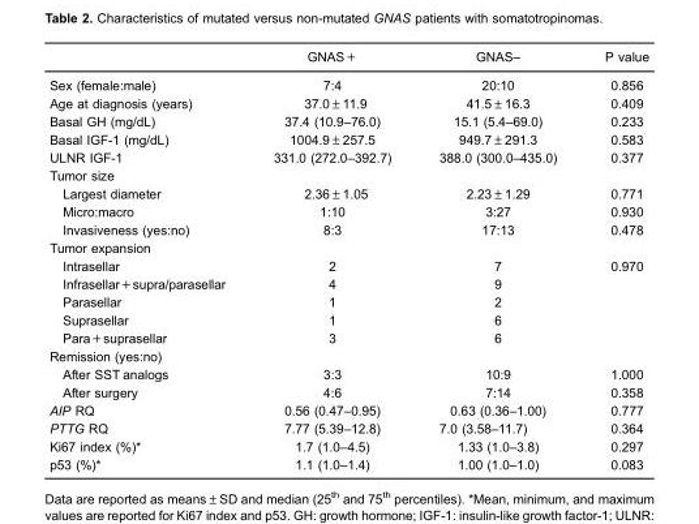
<table><thead><tr><td></td><td>GNAS+</td><td>GNAS–</td><td>P value</td></tr></thead><tbody><tr><td>Sex (female:male)</td><td>7:4</td><td>20:10</td><td>0.856</td></tr><tr><td>Age at diagnosis (years)</td><td>37.0±11.9</td><td>41.5±16.3</td><td>0.409</td></tr><tr><td>Basal GH (mg/dL)</td><td>37.4 (10.9–76.0)</td><td>15.1 (5.4–69.0)</td><td>0.233</td></tr><tr><td>Basal IGF-1 (mg/dL)</td><td>1004.9±257.5</td><td>949.7±291.3</td><td>0.583</td></tr><tr><td>ULNR IGF-1</td><td>331.0 (272.0–392.7)</td><td>388.0 (300.0–435.0)</td><td>0.377</td></tr><tr><td colspan="4">Tumor size</td></tr><tr><td>Largest diameter</td><td>2.36±1.05</td><td>2.23±1.29</td><td>0.771</td></tr><tr><td>Micro:macro</td><td>1:10</td><td>3:27</td><td>0.930</td></tr><tr><td>Invasiveness (yes:no)</td><td>8:3</td><td>17:13</td><td>0.478</td></tr><tr><td colspan="4">Tumor expansion</td></tr><tr><td>Intrasellar</td><td>2</td><td>7</td><td>0.970</td></tr><tr><td>Infrasellar+supra/parasellar</td><td>4</td><td>9</td><td></td></tr><tr><td>Parasellar</td><td>1</td><td>2</td><td></td></tr><tr><td>Suprasellar</td><td>1</td><td>6</td><td></td></tr><tr><td>Para+suprasellar</td><td>3</td><td>6</td><td></td></tr><tr><td colspan="4">Remission (yes:no)</td></tr><tr><td>After SST analogs</td><td>3:3</td><td>10:9</td><td>1.000</td></tr><tr><td>After surgery</td><td>4:6</td><td>7:14</td><td>0.358</td></tr><tr><td>AIP RQ</td><td>0.56 (0.47–0.95)</td><td>0.63 (0.36–1.00)</td><td>0.777</td></tr><tr><td>PTTG RQ</td><td>7.77 (5.39–12.8)</td><td>7.0 (3.58–11.7)</td><td>0.364</td></tr><tr><td>Ki67 index (%)*</td><td>1.7 (1.0–4.5)</td><td>1.33 (1.0–3.8)</td><td>0.297</td></tr><tr><td>p53 (%)*</td><td>1.1 (1.0–1.4)</td><td>1.00 (1.0–1.0)</td><td>0.083</td></tr></tbody></table>